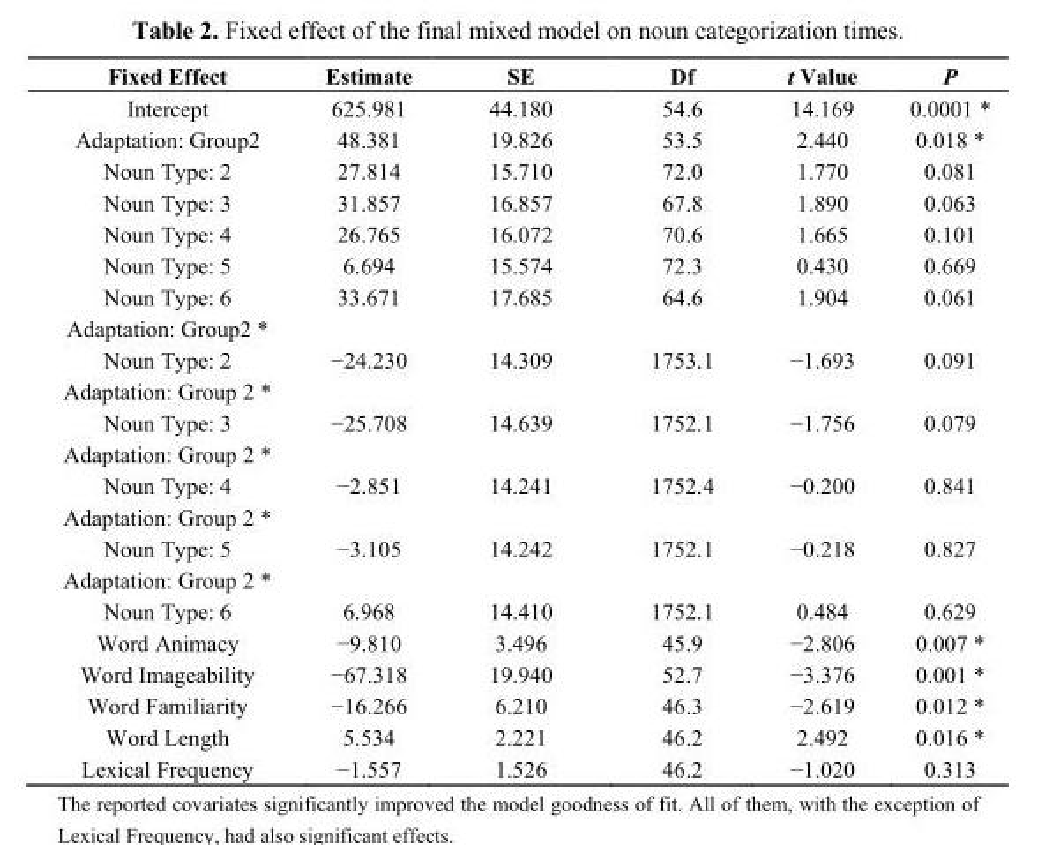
<table><thead><tr><td>Fixed Effect</td><td>Estimate</td><td>SE</td><td>Df</td><td>t Value</td><td>P</td></tr></thead><tbody><tr><td>Intercept</td><td>625.981</td><td>44.180</td><td>54.6</td><td>14.169</td><td>0.0001 *</td></tr><tr><td>Adaptation: Group2</td><td>48.381</td><td>19.826</td><td>53.5</td><td>2.440</td><td>0.018 *</td></tr><tr><td>Noun Type: 2</td><td>27.814</td><td>15.710</td><td>72.0</td><td>1.770</td><td>0.081</td></tr><tr><td>Noun Type: 3</td><td>31.857</td><td>16.857</td><td>67.8</td><td>1.890</td><td>0.063</td></tr><tr><td>Noun Type: 4</td><td>26.765</td><td>16.072</td><td>70.6</td><td>1.665</td><td>0.101</td></tr><tr><td>Noun Type: 5</td><td>6.694</td><td>15.574</td><td>72.3</td><td>0.430</td><td>0.669</td></tr><tr><td>Noun Type: 6</td><td>33.671</td><td>17.685</td><td>64.6</td><td>1.904</td><td>0.061</td></tr><tr><td colspan="6">Adaptation: Group2 *</td></tr><tr><td>Noun Type: 2</td><td>−24.230</td><td>14.309</td><td>1753.1</td><td>−1.693</td><td>0.091</td></tr><tr><td colspan="6">Adaptation: Group 2 *</td></tr><tr><td>Noun Type: 3</td><td>−25.708</td><td>14.639</td><td>1752.1</td><td>−1.756</td><td>0.079</td></tr><tr><td colspan="6">Adaptation: Group 2 *</td></tr><tr><td>Noun Type: 4</td><td>−2.851</td><td>14.241</td><td>1752.4</td><td>−0.200</td><td>0.841</td></tr><tr><td colspan="6">Adaptation: Group 2 *</td></tr><tr><td>Noun Type: 5</td><td>−3.105</td><td>14.242</td><td>1752.1</td><td>−0.218</td><td>0.827</td></tr><tr><td colspan="6">Adaptation: Group 2 *</td></tr><tr><td>Noun Type: 6</td><td>6.968</td><td>14.410</td><td>1752.1</td><td>0.484</td><td>0.629</td></tr><tr><td>Word Animacy</td><td>−9.810</td><td>3.496</td><td>45.9</td><td>−2.806</td><td>0.007 *</td></tr><tr><td>Word Imageability</td><td>−67.318</td><td>19.940</td><td>52.7</td><td>−3.376</td><td>0.001 *</td></tr><tr><td>Word Familiarity</td><td>−16.266</td><td>6.210</td><td>46.3</td><td>−2.619</td><td>0.012 *</td></tr><tr><td>Word Length</td><td>5.534</td><td>2.221</td><td>46.2</td><td>2.492</td><td>0.016 *</td></tr><tr><td>Lexical Frequency</td><td>−1.557</td><td>1.526</td><td>46.2</td><td>−1.020</td><td>0.313</td></tr></tbody></table>